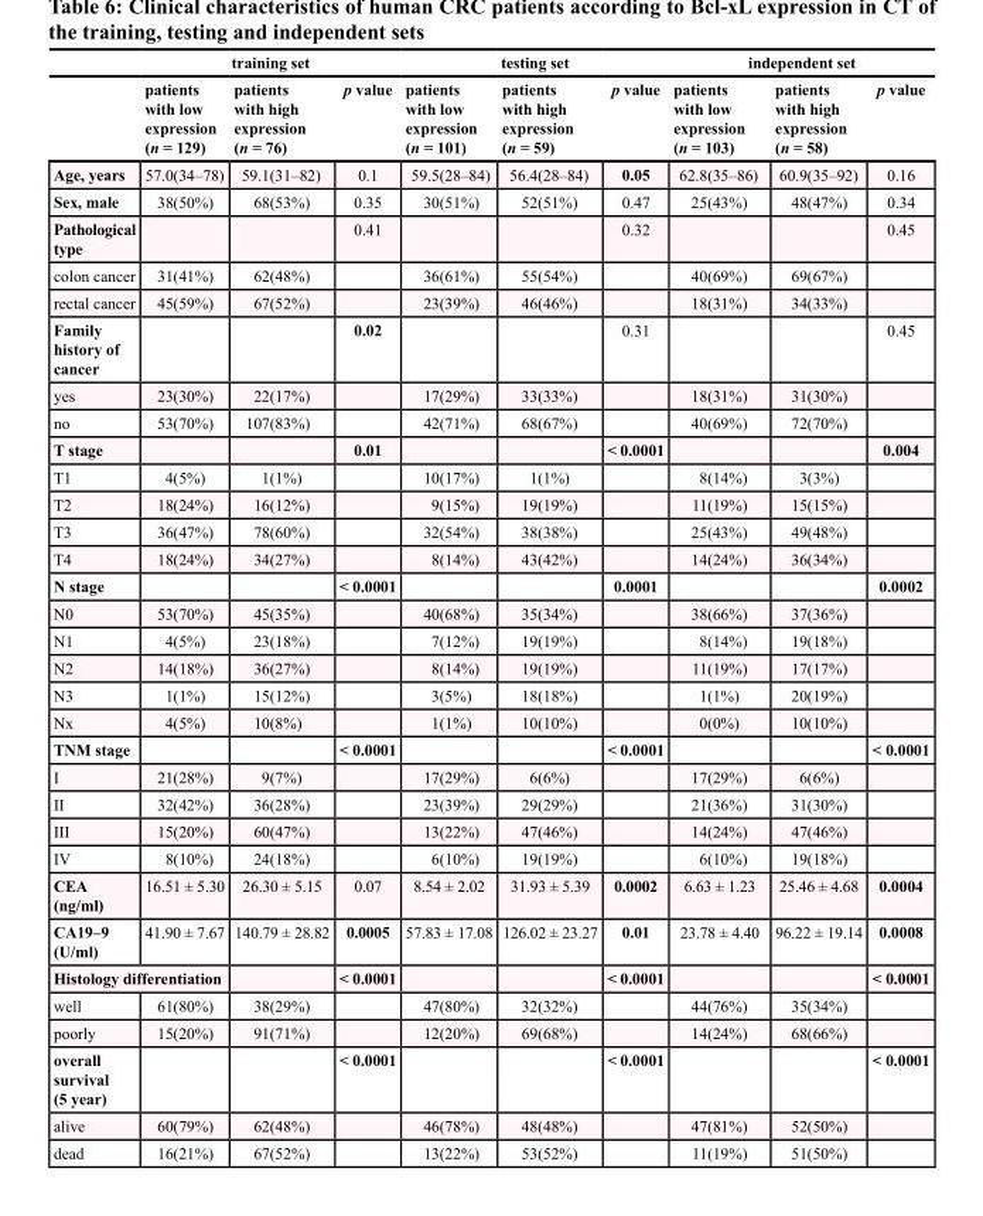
<table><thead><tr><td rowspan="2"></td><td colspan="3">training set</td><td colspan="3">testing set</td><td colspan="3">independent set</td></tr><tr><td>patients with low expression (n = 129)</td><td>patients with high expression (n = 76)</td><td>p value</td><td>patients with low expression (n = 101)</td><td>patients with high expression (n = 59)</td><td>p value</td><td>patients with low expression (n = 103)</td><td>patients with high expression (n = 58)</td><td>p value</td></tr></thead><tbody><tr><td>Age, years</td><td>57.0(34–78)</td><td>59.1(31–82)</td><td>0.1</td><td>59.5(28–84)</td><td>56.4(28–84)</td><td>0.05</td><td>62.8(35–86)</td><td>60.9(35–92)</td><td>0.16</td></tr><tr><td>Sex, male</td><td>38(50%)</td><td>68(53%)</td><td>0.35</td><td>30(51%)</td><td>52(51%)</td><td>0.47</td><td>25(43%)</td><td>48(47%)</td><td>0.34</td></tr><tr><td>Pathological type</td><td></td><td></td><td>0.41</td><td></td><td></td><td>0.32</td><td></td><td></td><td>0.45</td></tr><tr><td>colon cancer</td><td>31(41%)</td><td>62(48%)</td><td></td><td>36(61%)</td><td>55(54%)</td><td></td><td>40(69%)</td><td>69(67%)</td><td></td></tr><tr><td>rectal cancer</td><td>45(59%)</td><td>67(52%)</td><td></td><td>23(39%)</td><td>46(46%)</td><td></td><td>18(31%)</td><td>34(33%)</td><td></td></tr><tr><td>Family history of cancer</td><td></td><td></td><td>0.02</td><td></td><td></td><td>0.31</td><td></td><td></td><td>0.45</td></tr><tr><td>yes</td><td>23(30%)</td><td>22(17%)</td><td></td><td>17(29%)</td><td>33(33%)</td><td></td><td>18(31%)</td><td>31(30%)</td><td></td></tr><tr><td>no</td><td>53(70%)</td><td>107(83%)</td><td></td><td>42(71%)</td><td>68(67%)</td><td></td><td>40(69%)</td><td>72(70%)</td><td></td></tr><tr><td>T stage</td><td></td><td></td><td>0.01</td><td></td><td></td><td>&lt; 0.0001</td><td></td><td></td><td>0.004</td></tr><tr><td>T1</td><td>4(5%)</td><td>1(1%)</td><td></td><td>10(17%)</td><td>1(1%)</td><td></td><td>8(14%)</td><td>3(3%)</td><td></td></tr><tr><td>T2</td><td>18(24%)</td><td>16(12%)</td><td></td><td>9(15%)</td><td>19(19%)</td><td></td><td>11(19%)</td><td>15(15%)</td><td></td></tr><tr><td>T3</td><td>36(47%)</td><td>78(60%)</td><td></td><td>32(54%)</td><td>38(38%)</td><td></td><td>25(43%)</td><td>49(48%)</td><td></td></tr><tr><td>T4</td><td>18(24%)</td><td>34(27%)</td><td></td><td>8(14%)</td><td>43(42%)</td><td></td><td>14(24%)</td><td>36(34%)</td><td></td></tr><tr><td>N stage</td><td></td><td></td><td>&lt; 0.0001</td><td></td><td></td><td>0.0001</td><td></td><td></td><td>0.0002</td></tr><tr><td>N0</td><td>53(70%)</td><td>45(35%)</td><td></td><td>40(68%)</td><td>35(34%)</td><td></td><td>38(66%)</td><td>37(36%)</td><td></td></tr><tr><td>N1</td><td>4(5%)</td><td>23(18%)</td><td></td><td>7(12%)</td><td>19(19%)</td><td></td><td>8(14%)</td><td>19(18%)</td><td></td></tr><tr><td>N2</td><td>14(18%)</td><td>36(27%)</td><td></td><td>8(14%)</td><td>19(19%)</td><td></td><td>11(19%)</td><td>17(17%)</td><td></td></tr><tr><td>N3</td><td>1(1%)</td><td>15(12%)</td><td></td><td>3(5%)</td><td>18(18%)</td><td></td><td>1(1%)</td><td>20(19%)</td><td></td></tr><tr><td>Nx</td><td>4(5%)</td><td>10(8%)</td><td></td><td>1(1%)</td><td>10(10%)</td><td></td><td>0(0%)</td><td>10(10%)</td><td></td></tr><tr><td>TNM stage</td><td></td><td></td><td>&lt; 0.0001</td><td></td><td></td><td>&lt; 0.0001</td><td></td><td></td><td>&lt; 0.0001</td></tr><tr><td>I</td><td>21(28%)</td><td>9(7%)</td><td></td><td>17(29%)</td><td>6(6%)</td><td></td><td>17(29%)</td><td>6(6%)</td><td></td></tr><tr><td>II</td><td>32(42%)</td><td>36(28%)</td><td></td><td>23(39%)</td><td>29(29%)</td><td></td><td>21(36%)</td><td>31(30%)</td><td></td></tr><tr><td>III</td><td>15(20%)</td><td>60(47%)</td><td></td><td>13(22%)</td><td>47(46%)</td><td></td><td>14(24%)</td><td>47(46%)</td><td></td></tr><tr><td>IV</td><td>8(10%)</td><td>24(18%)</td><td></td><td>6(10%)</td><td>19(19%)</td><td></td><td>6(10%)</td><td>19(18%)</td><td></td></tr><tr><td>CEA (ng/ml)</td><td>16.51 ± 5.30</td><td>26.30 ± 5.15</td><td>0.07</td><td>8.54 ± 2.02</td><td>31.93 ± 5.39</td><td>0.0002</td><td>6.63 ± 1.23</td><td>25.46 ± 4.68</td><td>0.0004</td></tr><tr><td>CA19–9 (U/ml)</td><td>41.90 ± 7.67</td><td>140.79 ± 28.82</td><td>0.0005</td><td>57.83 ± 17.08</td><td>126.02 ± 23.27</td><td>0.01</td><td>23.78 ± 4.40</td><td>96.22 ± 19.14</td><td>0.0008</td></tr><tr><td colspan="2">Histology differentiation</td><td></td><td>&lt; 0.0001</td><td></td><td></td><td>&lt; 0.0001</td><td></td><td></td><td>&lt; 0.0001</td></tr><tr><td>well</td><td>61(80%)</td><td>38(29%)</td><td></td><td>47(80%)</td><td>32(32%)</td><td></td><td>44(76%)</td><td>35(34%)</td><td></td></tr><tr><td>poorly</td><td>15(20%)</td><td>91(71%)</td><td></td><td>12(20%)</td><td>69(68%)</td><td></td><td>14(24%)</td><td>68(66%)</td><td></td></tr><tr><td>overall survival (5 year)</td><td></td><td></td><td>&lt; 0.0001</td><td></td><td></td><td>&lt; 0.0001</td><td></td><td></td><td>&lt; 0.0001</td></tr><tr><td>alive</td><td>60(79%)</td><td>62(48%)</td><td></td><td>46(78%)</td><td>48(48%)</td><td></td><td>47(81%)</td><td>52(50%)</td><td></td></tr><tr><td>dead</td><td>16(21%)</td><td>67(52%)</td><td></td><td>13(22%)</td><td>53(52%)</td><td></td><td>11(19%)</td><td>51(50%)</td><td></td></tr></tbody></table>